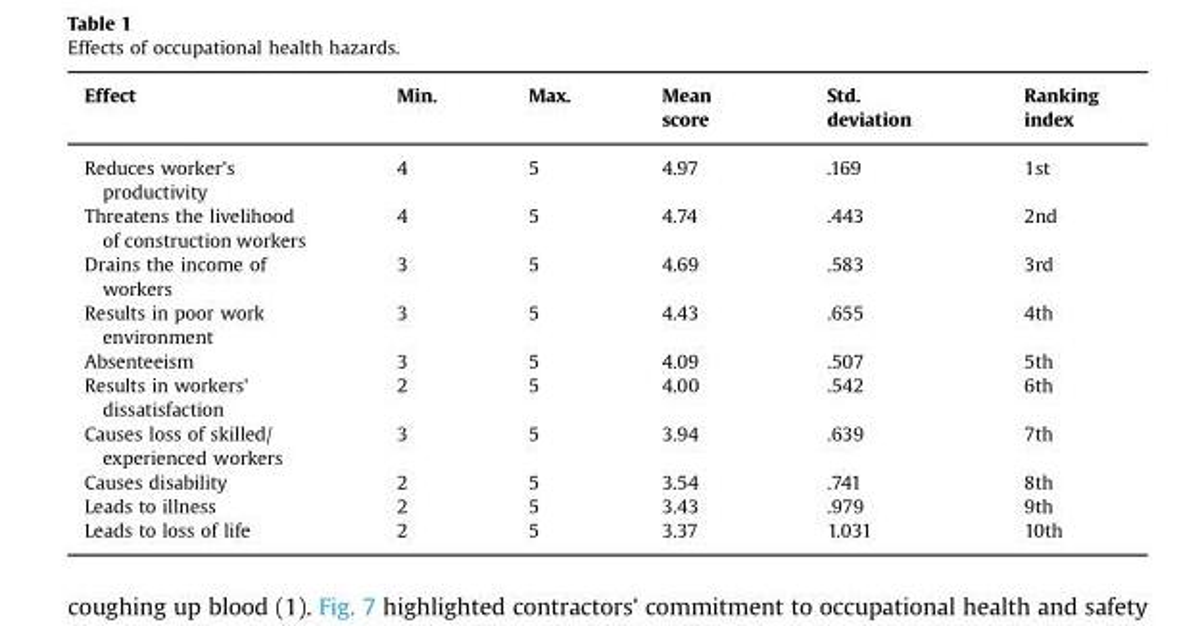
<table><thead><tr><td>Effect</td><td>Min.</td><td>Max.</td><td>Mean score</td><td>Std. deviation</td><td>Ranking index</td></tr></thead><tbody><tr><td>Reduces worker&#x27;s productivity</td><td>4</td><td>5</td><td>4.97</td><td>.169</td><td>1st</td></tr><tr><td>Threatens the livelihood of construction workers</td><td>4</td><td>5</td><td>4.74</td><td>.443</td><td>2nd</td></tr><tr><td>Drains the income of workers</td><td>3</td><td>5</td><td>4.69</td><td>.583</td><td>3rd</td></tr><tr><td>Results in poor work environment</td><td>3</td><td>5</td><td>4.43</td><td>.655</td><td>4th</td></tr><tr><td>Absenteeism</td><td>3</td><td>5</td><td>4.09</td><td>.507</td><td>5th</td></tr><tr><td>Results in workers&#x27; dissatisfaction</td><td>2</td><td>5</td><td>4.00</td><td>.542</td><td>6th</td></tr><tr><td>Causes loss of skilled/ experienced workers</td><td>3</td><td>5</td><td>3.94</td><td>.639</td><td>7th</td></tr><tr><td>Causes disability</td><td>2</td><td>5</td><td>3.54</td><td>.741</td><td>8th</td></tr><tr><td>Leads to illness</td><td>2</td><td>5</td><td>3.43</td><td>.979</td><td>9th</td></tr><tr><td>Leads to loss of life</td><td>2</td><td>5</td><td>3.37</td><td>1.031</td><td>10th</td></tr></tbody></table>